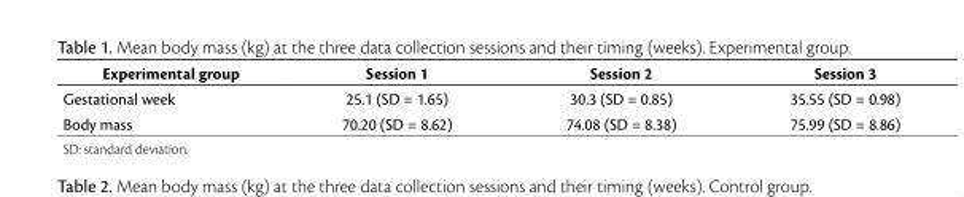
<table><thead><tr><td>Experimental group</td><td>Session 1</td><td>Session 2</td><td>Session 3</td></tr></thead><tbody><tr><td>Gestational week</td><td>25.1 (SD = 1.65)</td><td>30.3 (SD = 0.85)</td><td>35.55 (SD = 0.98)</td></tr><tr><td>Body mass</td><td>70.20 (SD = 8.62)</td><td>74.08 (SD = 8.38)</td><td>75.99 (SD = 8.86)</td></tr></tbody></table>